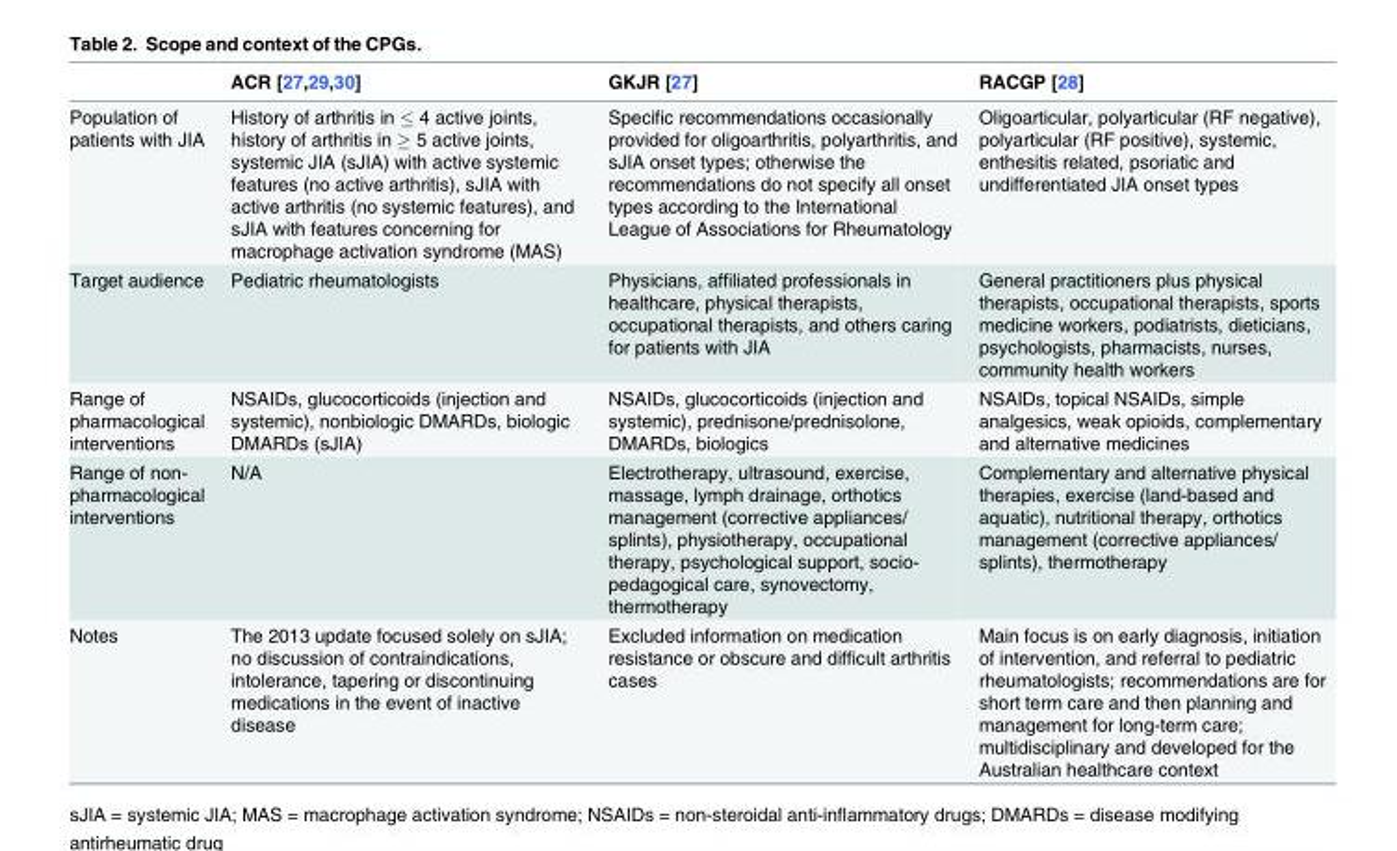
<table><thead><tr><td></td><td>ACR [27,29,30]</td><td>GKJR [27]</td><td>RACGP [28]</td></tr></thead><tbody><tr><td>Population of patients with JIA</td><td>History of arthritis in ≤ 4 active joints, history of arthritis in ≥ 5 active joints, systemic JIA (sJIA) with active systemic features (no active arthritis), sJIA with active arthritis (no systemic features), and sJIA with features concerning for macrophage activation syndrome (MAS)</td><td>Specific recommendations occasionally provided for oligoarthritis, polyarthritis, and sJIA onset types; otherwise the recommendations do not specify all onset types according to the International League of Associations for Rheumatology</td><td>Oligoarticular, polyarticular (RF negative), polyarticular (RF positive), systemic, enthesitis related, psoriatic and undifferentiated JIA onset types</td></tr><tr><td>Target audience</td><td>Pediatric rheumatologists</td><td>Physicians, affiliated professionals in healthcare, physical therapists, occupational therapists, and others caring for patients with JIA</td><td>General practitioners plus physical therapists, occupational therapists, sports medicine workers, podiatrists, dieticians, psychologists, pharmacists, nurses, community health workers</td></tr><tr><td>Range of pharmacological interventions</td><td>NSAIDs, glucocorticoids (injection and systemic), nonbiologic DMARDs, biologic DMARDs (sJIA)</td><td>NSAIDs, glucocorticoids (injection and systemic), prednisone/prednisolone, DMARDs, biologics</td><td>NSAIDs, topical NSAIDs, simple analgesics, weak opioids, complementary and alternative medicines</td></tr><tr><td>Range of non- pharmacological interventions</td><td>N/A</td><td>Electrotherapy, ultrasound, exercise, massage, lymph drainage, orthotics management (corrective appliances/ splints), physiotherapy, occupational therapy, psychological support, socio- pedagogical care, synovectomy, thermotherapy</td><td>Complementary and alternative physical therapies, exercise (land-based and aquatic), nutritional therapy, orthotics management (corrective appliances/ splints), thermotherapy</td></tr><tr><td>Notes</td><td>The 2013 update focused solely on sJIA; no discussion of contraindications, intolerance, tapering or discontinuing medications in the event of inactive disease</td><td>Excluded information on medication resistance or obscure and difficult arthritis cases</td><td>Main focus is on early diagnosis, initiation of intervention, and referral to pediatric rheumatologists; recommendations are for short term care and then planning and management for long-term care; multidisciplinary and developed for the Australian healthcare context</td></tr></tbody></table>